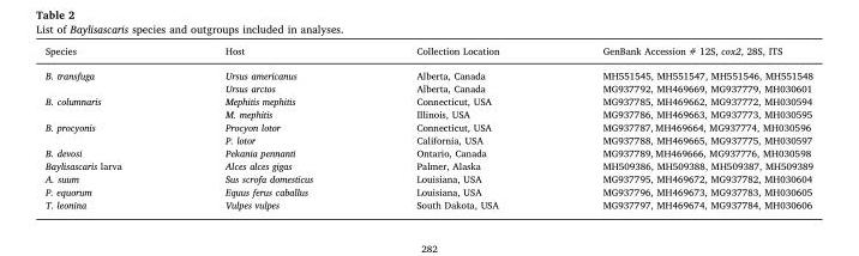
<table><thead><tr><td>Species</td><td>Host</td><td>Collection Location</td><td>GenBank Accession # 12S, cox2, 28S, ITS</td></tr></thead><tbody><tr><td rowspan="2">B. transfuga</td><td>Ursus americanus</td><td>Alberta, Canada</td><td>MH551545, MH551547, MH551546, MH551548</td></tr><tr><td>Ursus arctos</td><td>Alberta, Canada</td><td>MG937792, MH469669, MG937779, MH030601</td></tr><tr><td rowspan="2">B. columnaris</td><td>Mephitis mephitis</td><td>Connecticut, USA</td><td>MG937785, MH469662, MG937772, MH030594</td></tr><tr><td>M. mephitis</td><td>Illinois, USA</td><td>MG937786, MH469663, MG937773, MH030595</td></tr><tr><td rowspan="2">B. procyonis</td><td>Procyon lotor</td><td>Connecticut, USA</td><td>MG937787, MH469664, MG937774, MH030596</td></tr><tr><td>P. lotor</td><td>California, USA</td><td>MG937788, MH469665, MG937775, MH030597</td></tr><tr><td>B. devosi</td><td>Pekania pennanti</td><td>Ontario, Canada</td><td>MG937789, MH469666, MG937776, MH030598</td></tr><tr><td>Baylisascaris larva</td><td>Alces alces gigas</td><td>Palmer, Alaska</td><td>MH509386, MH509388, MH509387, MH509389</td></tr><tr><td>A. suum</td><td>Sus scrofa domesticus</td><td>Louisiana, USA</td><td>MG937795, MH469672, MG937782, MH030604</td></tr><tr><td>P. equorum</td><td>Equus ferus caballus</td><td>Louisiana, USA</td><td>MG937796, MH469673, MG937783, MH030605</td></tr><tr><td>T. leonina</td><td>Vulpes vulpes</td><td>South Dakota, USA</td><td>MG937797, MH469674, MG937784, MH030606</td></tr></tbody></table>